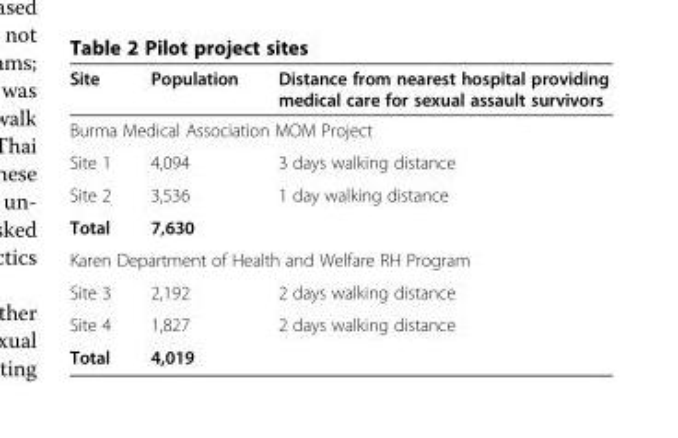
<table><thead><tr><td>Site</td><td>Population</td><td>Distance from nearest hospital providing medical care for sexual assault survivors</td></tr></thead><tbody><tr><td colspan="3">Burma Medical Association MOM Project</td></tr><tr><td>Site 1</td><td>4,094</td><td>3 days walking distance</td></tr><tr><td>Site 2</td><td>3,536</td><td>1 day walking distance</td></tr><tr><td>Total</td><td>7,630</td><td></td></tr><tr><td colspan="3">Karen Department of Health and Welfare RH Program</td></tr><tr><td>Site 3</td><td>2,192</td><td>2 days walking distance</td></tr><tr><td>Site 4</td><td>1,827</td><td>2 days walking distance</td></tr><tr><td>Total</td><td>4,019</td><td></td></tr></tbody></table>